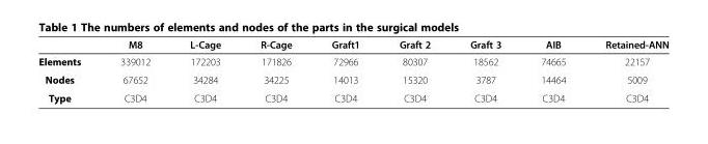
<table><thead><tr><td></td><td>M8</td><td>L-Cage</td><td>R-Cage</td><td>Graft1</td><td>Graft 2</td><td>Graft 3</td><td>AIB</td><td>Retained-ANN</td></tr></thead><tbody><tr><td>Elements</td><td>339012</td><td>172203</td><td>171826</td><td>72966</td><td>80307</td><td>18562</td><td>74665</td><td>22157</td></tr><tr><td>Nodes</td><td>67652</td><td>34284</td><td>34225</td><td>14013</td><td>15320</td><td>3787</td><td>14464</td><td>5009</td></tr><tr><td>Type</td><td>C3D4</td><td>C3D4</td><td>C3D4</td><td>C3D4</td><td>C3D4</td><td>C3D4</td><td>C3D4</td><td>C3D4</td></tr></tbody></table>